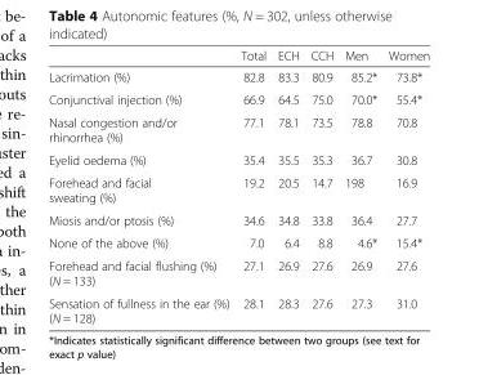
<table><thead><tr><td></td><td>Total</td><td>ECH</td><td>CCH</td><td>Men</td><td>Women</td></tr></thead><tbody><tr><td>Lacrimation (%)</td><td>82.8</td><td>83.3</td><td>80.9</td><td>85.2*</td><td>73.8*</td></tr><tr><td>Conjunctival injection (%)</td><td>66.9</td><td>64.5</td><td>75.0</td><td>70.0*</td><td>55.4*</td></tr><tr><td>Nasal congestion and/or rhinorrhea (%)</td><td>77.1</td><td>78.1</td><td>73.5</td><td>78.8</td><td>70.8</td></tr><tr><td>Eyelid oedema (%)</td><td>35.4</td><td>35.5</td><td>35.3</td><td>36.7</td><td>30.8</td></tr><tr><td>Forehead and facial sweating (%)</td><td>19.2</td><td>20.5</td><td>14.7</td><td>198</td><td>16.9</td></tr><tr><td>Miosis and/or ptosis (%)</td><td>34.6</td><td>34.8</td><td>33.8</td><td>36.4</td><td>27.7</td></tr><tr><td>None of the above (%)</td><td>7.0</td><td>6.4</td><td>8.8</td><td>4.6*</td><td>15.4*</td></tr><tr><td>Forehead and facial flushing (%) (N = 133)</td><td>27.1</td><td>26.9</td><td>27.6</td><td>26.9</td><td>27.6</td></tr><tr><td>Sensation of fullness in the ear (%) (N = 128)</td><td>28.1</td><td>28.3</td><td>27.6</td><td>27.3</td><td>31.0</td></tr></tbody></table>